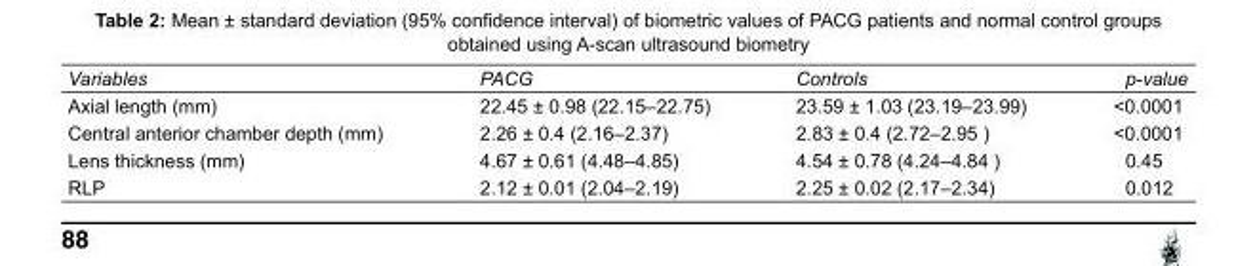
<table><tbody><tr><td>Variables</td><td>PACG</td><td>Controls</td><td>p-value</td></tr><tr><td>Axial length (mm)</td><td>22.45 ± 0.98 (22.15–22.75)</td><td>23.59 ± 1.03 (23.19–23.99)</td><td>&lt;0.0001</td></tr><tr><td>Central anterior chamber depth (mm)</td><td>2.26 ± 0.4 (2.16–2.37)</td><td>2.83 ± 0.4 (2.72–2.95 )</td><td>&lt;0.0001</td></tr><tr><td>Lens thickness (mm)</td><td>4.67 ± 0.61 (4.48–4.85)</td><td>4.54 ± 0.78 (4.24–4.84 )</td><td>0.45</td></tr><tr><td>RLP</td><td>2.12 ± 0.01 (2.04–2.19)</td><td>2.25 ± 0.02 (2.17–2.34)</td><td>0.012</td></tr></tbody></table>